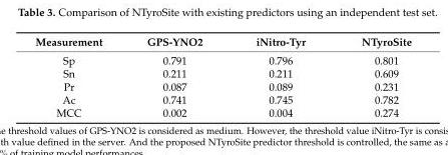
<table><thead><tr><td>Measurement</td><td>GPS-YNO2</td><td>iNitro-Tyr</td><td>NTyroSite</td></tr></thead><tbody><tr><td>Sp</td><td>0.791</td><td>0.796</td><td>0.801</td></tr><tr><td>Sn</td><td>0.211</td><td>0.211</td><td>0.609</td></tr><tr><td>Pr</td><td>0.087</td><td>0.089</td><td>0.231</td></tr><tr><td>Ac</td><td>0.741</td><td>0.745</td><td>0.782</td></tr><tr><td>MCC</td><td>0.002</td><td>0.004</td><td>0.274</td></tr></tbody></table>